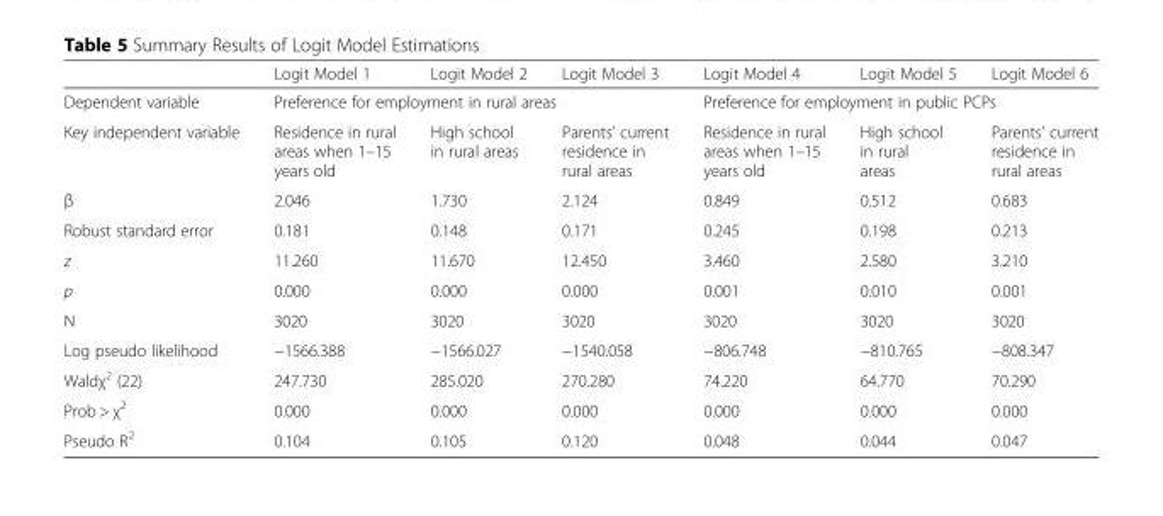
<table><thead><tr><td></td><td>Logit Model 1</td><td>Logit Model 2</td><td>Logit Model 3</td><td>Logit Model 4</td><td>Logit Model 5</td><td>Logit Model 6</td></tr></thead><tbody><tr><td>Dependent variable</td><td colspan="3">Preference for employment in rural areas</td><td colspan="3">Preference for employment in public PCPs</td></tr><tr><td>Key independent variable</td><td>Residence in rural areas when 1–15 years old</td><td>High school in rural areas</td><td>Parents’ current residence in rural areas</td><td>Residence in rural areas when 1–15 years old</td><td>High school in rural areas</td><td>Parents’ current residence in rural areas</td></tr><tr><td>β</td><td>2.046</td><td>1.730</td><td>2.124</td><td>0.849</td><td>0.512</td><td>0.683</td></tr><tr><td>Robust standard error</td><td>0.181</td><td>0.148</td><td>0.171</td><td>0.245</td><td>0.198</td><td>0.213</td></tr><tr><td>z</td><td>11.260</td><td>11.670</td><td>12.450</td><td>3.460</td><td>2.580</td><td>3.210</td></tr><tr><td>p</td><td>0.000</td><td>0.000</td><td>0.000</td><td>0.001</td><td>0.010</td><td>0.001</td></tr><tr><td>N</td><td>3020</td><td>3020</td><td>3020</td><td>3020</td><td>3020</td><td>3020</td></tr><tr><td>Log pseudo likelihood</td><td>−1566.388</td><td>−1566.027</td><td>−1540.058</td><td>−806.748</td><td>−810.765</td><td>−808.347</td></tr><tr><td>Waldχ<sup>2</sup> (22)</td><td>247.730</td><td>285.020</td><td>270.280</td><td>74.220</td><td>64.770</td><td>70.290</td></tr><tr><td>Prob &gt; χ<sup>2</sup></td><td>0.000</td><td>0.000</td><td>0.000</td><td>0.000</td><td>0.000</td><td>0.000</td></tr><tr><td>Pseudo R<sup>2</sup></td><td>0.104</td><td>0.105</td><td>0.120</td><td>0.048</td><td>0.044</td><td>0.047</td></tr></tbody></table>